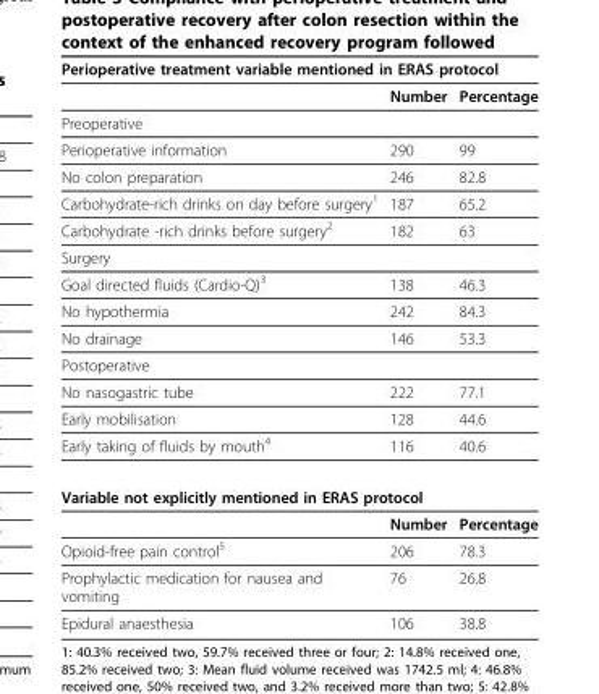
<table><thead><tr><td colspan="3">Perioperative treatment variable mentioned in ERAS protocol</td></tr><tr><td></td><td>Number</td><td>Percentage</td></tr></thead><tbody><tr><td colspan="3">Preoperative</td></tr><tr><td>Perioperative information</td><td>290</td><td>99</td></tr><tr><td>No colon preparation</td><td>246</td><td>82.8</td></tr><tr><td>Carbohydrate-rich drinks on day before surgery<sup>1</sup></td><td>187</td><td>65.2</td></tr><tr><td>Carbohydrate -rich drinks before surgery<sup>2</sup></td><td>182</td><td>63</td></tr><tr><td colspan="3">Surgery</td></tr><tr><td>Goal directed fluids (Cardio-Q)<sup>3</sup></td><td>138</td><td>46.3</td></tr><tr><td>No hypothermia</td><td>242</td><td>84.3</td></tr><tr><td>No drainage</td><td>146</td><td>53.3</td></tr><tr><td colspan="3">Postoperative</td></tr><tr><td>No nasogastric tube</td><td>222</td><td>77.1</td></tr><tr><td>Early mobilisation</td><td>128</td><td>44.6</td></tr><tr><td>Early taking of fluids by mouth<sup>4</sup></td><td>116</td><td>40.6</td></tr><tr><td colspan="3">Variable not explicitly mentioned in ERAS protocol</td></tr><tr><td></td><td>Number</td><td>Percentage</td></tr><tr><td>Opioid-free pain control<sup>5</sup></td><td>206</td><td>78.3</td></tr><tr><td>Prophylactic medication for nausea and vomiting</td><td>76</td><td>26.8</td></tr><tr><td>Epidural anaesthesia</td><td>106</td><td>38.8</td></tr></tbody></table>